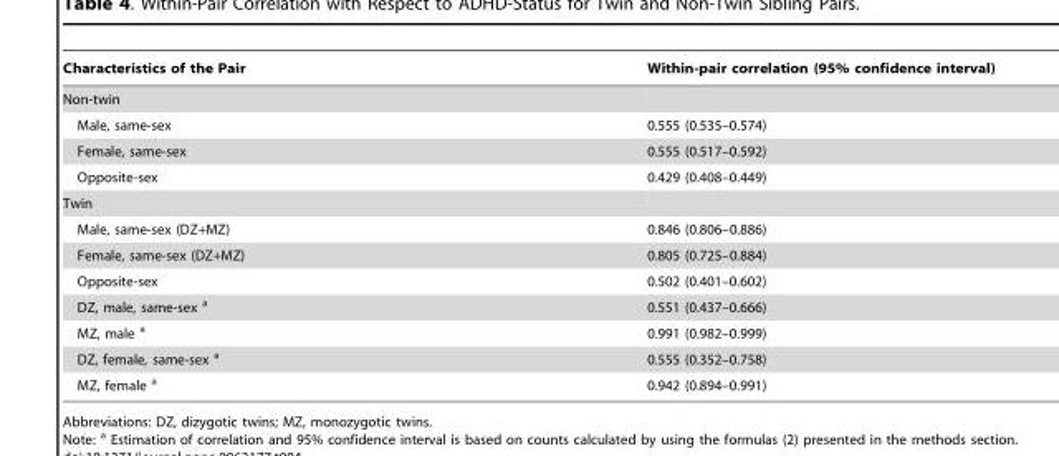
<table><thead><tr><td>Characteristics of the Pair</td><td>Within-pair correlation (95% confidence interval)</td></tr></thead><tbody><tr><td colspan="2">Non-twin</td></tr><tr><td>Male, same-sex</td><td>0.555 (0.535–0.574)</td></tr><tr><td>Female, same-sex</td><td>0.555 (0.517–0.592)</td></tr><tr><td>Opposite-sex</td><td>0.429 (0.408–0.449)</td></tr><tr><td colspan="2">Twin</td></tr><tr><td>Male, same-sex (DZ+MZ)</td><td>0.846 (0.806–0.886)</td></tr><tr><td>Female, same-sex (DZ+MZ)</td><td>0.805 (0.725–0.884)</td></tr><tr><td>Opposite-sex</td><td>0.502 (0.401–0.602)</td></tr><tr><td>DZ, male, same-sex <sup>a</sup></td><td>0.551 (0.437–0.666)</td></tr><tr><td>MZ, male <sup>a</sup></td><td>0.991 (0.982–0.999)</td></tr><tr><td>DZ, female, same-sex <sup>a</sup></td><td>0.555 (0.352–0.758)</td></tr><tr><td>MZ, female <sup>a</sup></td><td>0.942 (0.894–0.991)</td></tr></tbody></table>